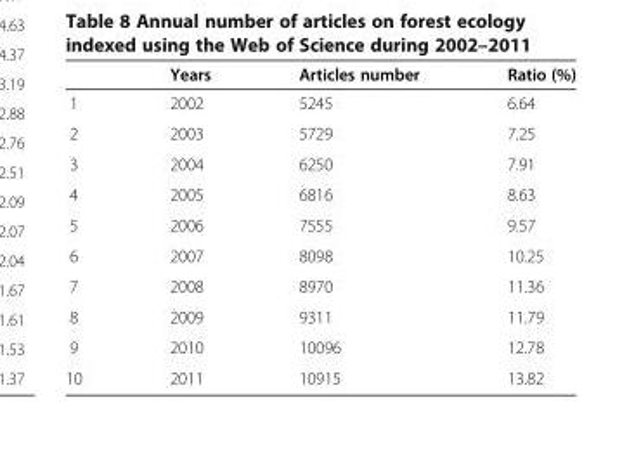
<table><thead><tr><td></td><td>Years</td><td>Articles number</td><td>Ratio (%)</td></tr></thead><tbody><tr><td>1</td><td>2002</td><td>5245</td><td>6.64</td></tr><tr><td>2</td><td>2003</td><td>5729</td><td>7.25</td></tr><tr><td>3</td><td>2004</td><td>6250</td><td>7.91</td></tr><tr><td>4</td><td>2005</td><td>6816</td><td>8.63</td></tr><tr><td>5</td><td>2006</td><td>7555</td><td>9.57</td></tr><tr><td>6</td><td>2007</td><td>8098</td><td>10.25</td></tr><tr><td>7</td><td>2008</td><td>8970</td><td>11.36</td></tr><tr><td>8</td><td>2009</td><td>9311</td><td>11.79</td></tr><tr><td>9</td><td>2010</td><td>10096</td><td>12.78</td></tr><tr><td>10</td><td>2011</td><td>10915</td><td>13.82</td></tr></tbody></table>